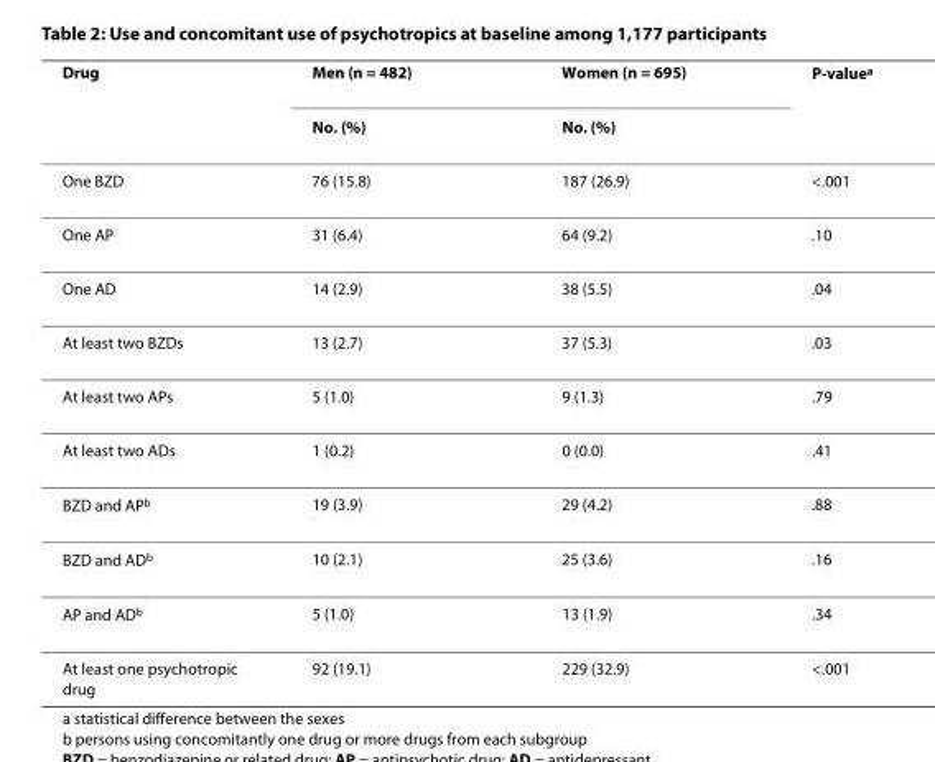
<table><thead><tr><td rowspan="2">Drug</td><td rowspan="2">Men (n = 482) No. (%)</td><td rowspan="2">Women (n = 695) No. (%)</td><td rowspan="2">P-value<sup>a</sup></td></tr><tr></tr></thead><tbody><tr><td>One BZD</td><td>76 (15.8)</td><td>187 (26.9)</td><td>&lt;.001</td></tr><tr><td>One AP</td><td>31 (6.4)</td><td>64 (9.2)</td><td>.10</td></tr><tr><td>One AD</td><td>14 (2.9)</td><td>38 (5.5)</td><td>.04</td></tr><tr><td>At least two BZDs</td><td>13 (2.7)</td><td>37 (5.3)</td><td>.03</td></tr><tr><td>At least two APs</td><td>5 (1.0)</td><td>9 (1.3)</td><td>.79</td></tr><tr><td>At least two ADs</td><td>1 (0.2)</td><td>0 (0.0)</td><td>.41</td></tr><tr><td>BZD and AP<sup>b</sup></td><td>19 (3.9)</td><td>29 (4.2)</td><td>.88</td></tr><tr><td>BZD and AD<sup>b</sup></td><td>10 (2.1)</td><td>25 (3.6)</td><td>.16</td></tr><tr><td>AP and AD<sup>b</sup></td><td>5 (1.0)</td><td>13 (1.9)</td><td>.34</td></tr><tr><td>At least one psychotropic drug</td><td>92 (19.1)</td><td>229 (32.9)</td><td>&lt;.001</td></tr></tbody></table>